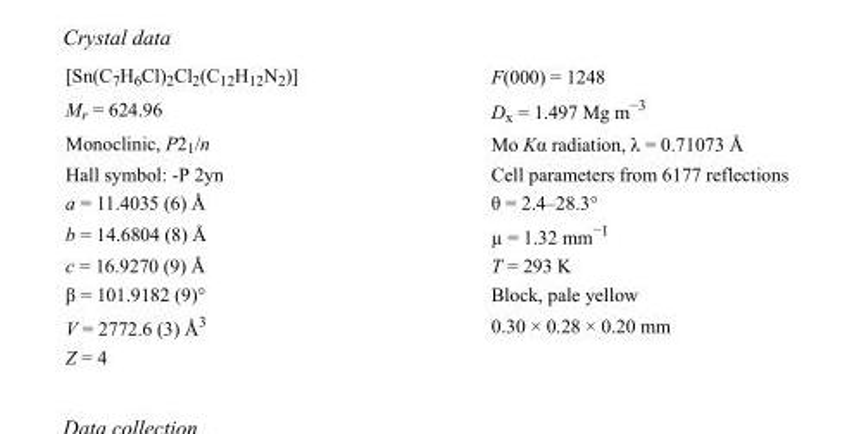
<table><tbody><tr><td>[Sn(C<sub>7</sub>H<sub>6</sub>Cl)<sub>2</sub>Cl<sub>2</sub>(C<sub>12</sub>H<sub>12</sub>N<sub>2</sub>)]</td><td>F(000) = 1248</td></tr><tr><td>M<sub>r</sub> = 624.96</td><td>D<sub>x</sub> = 1.497 Mg m<sup>−3</sup></td></tr><tr><td>Monoclinic, P2<sub>1</sub>/n</td><td>Mo Kα radiation, λ = 0.71073 Å</td></tr><tr><td>Hall symbol: -P 2yn</td><td>Cell parameters from 6177 reflections</td></tr><tr><td>a = 11.4035 (6) Å</td><td>θ = 2.4–28.3°</td></tr><tr><td>b = 14.6804 (8) Å</td><td>µ = 1.32 mm<sup>−1</sup></td></tr><tr><td>c = 16.9270 (9) Å</td><td>T = 293 K</td></tr><tr><td>β = 101.9182 (9)°</td><td>Block, pale yellow</td></tr><tr><td>V = 2772.6 (3) Å<sup>3</sup></td><td>0.30 × 0.28 × 0.20 mm</td></tr><tr><td>Z = 4</td><td></td></tr></tbody></table>